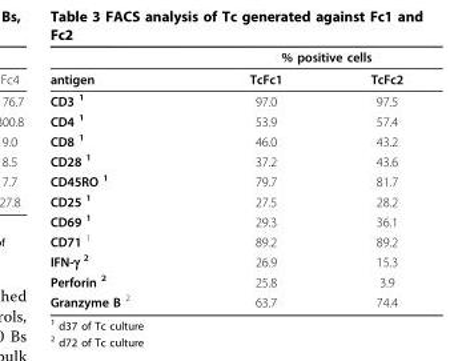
<table><thead><tr><td rowspan="2">antigen</td><td colspan="2">% positive cells</td></tr><tr><td>TcFc1</td><td>TcFc2</td></tr></thead><tbody><tr><td>CD3 <sup>1</sup></td><td>97.0</td><td>97.5</td></tr><tr><td>CD4 <sup>1</sup></td><td>53.9</td><td>57.4</td></tr><tr><td>CD8 <sup>1</sup></td><td>46.0</td><td>43.2</td></tr><tr><td>CD28 <sup>1</sup></td><td>37.2</td><td>43.6</td></tr><tr><td>CD45RO <sup>1</sup></td><td>79.7</td><td>81.7</td></tr><tr><td>CD25 <sup>1</sup></td><td>27.5</td><td>28.2</td></tr><tr><td>CD69 <sup>1</sup></td><td>29.3</td><td>36.1</td></tr><tr><td>CD71 <sup>1</sup></td><td>89.2</td><td>89.2</td></tr><tr><td>IFN-γ <sup>2</sup></td><td>26.9</td><td>15.3</td></tr><tr><td>Perforin <sup>2</sup></td><td>25.8</td><td>3.9</td></tr><tr><td>Granzyme B <sup>2</sup></td><td>63.7</td><td>74.4</td></tr></tbody></table>